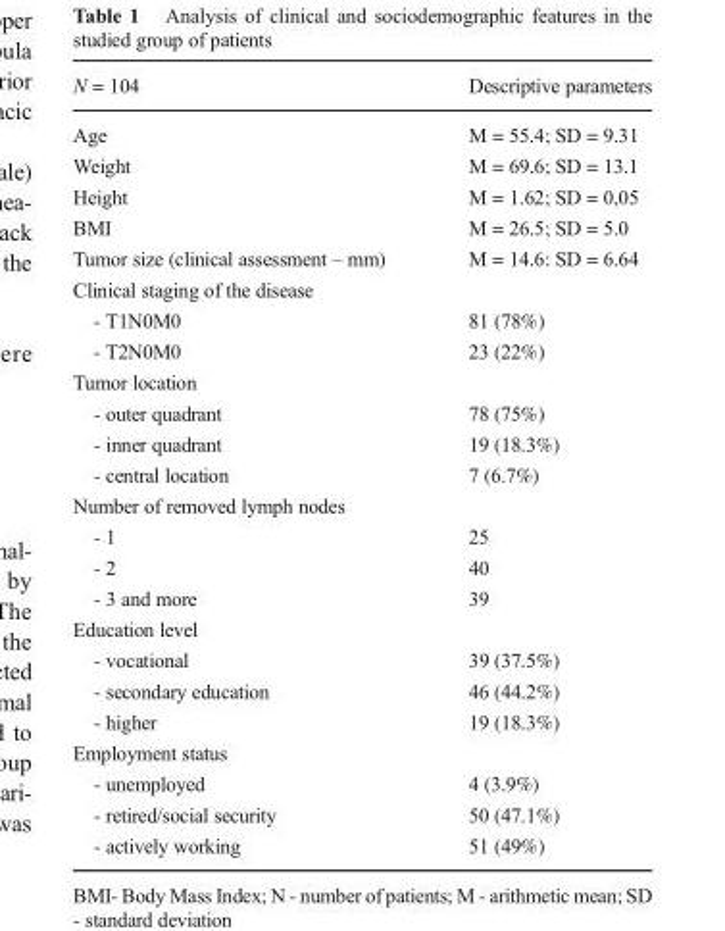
<table><thead><tr><td>N = 104</td><td>Descriptive parameters</td></tr></thead><tbody><tr><td>Age</td><td>M = 55.4; SD = 9.31</td></tr><tr><td>Weight</td><td>M = 69.6; SD = 13.1</td></tr><tr><td>Height</td><td>M = 1.62; SD = 0,05</td></tr><tr><td>BMI</td><td>M = 26.5; SD = 5.0</td></tr><tr><td>Tumor size (clinical assessment – mm)</td><td>M = 14.6: SD = 6.64</td></tr><tr><td colspan="2">Clinical staging of the disease</td></tr><tr><td>- T1N0M0</td><td>81 (78%)</td></tr><tr><td>- T2N0M0</td><td>23 (22%)</td></tr><tr><td colspan="2">Tumor location</td></tr><tr><td>- outer quadrant</td><td>78 (75%)</td></tr><tr><td>- inner quadrant</td><td>19 (18.3%)</td></tr><tr><td>- central location</td><td>7 (6.7%)</td></tr><tr><td colspan="2">Number of removed lymph nodes</td></tr><tr><td>- 1</td><td>25</td></tr><tr><td>- 2</td><td>40</td></tr><tr><td>- 3 and more</td><td>39</td></tr><tr><td colspan="2">Education level</td></tr><tr><td>- vocational</td><td>39 (37.5%)</td></tr><tr><td>- secondary education</td><td>46 (44.2%)</td></tr><tr><td>- higher</td><td>19 (18.3%)</td></tr><tr><td colspan="2">Employment status</td></tr><tr><td>- unemployed</td><td>4 (3.9%)</td></tr><tr><td>- retired/social security</td><td>50 (47.1%)</td></tr><tr><td>- actively working</td><td>51 (49%)</td></tr></tbody></table>